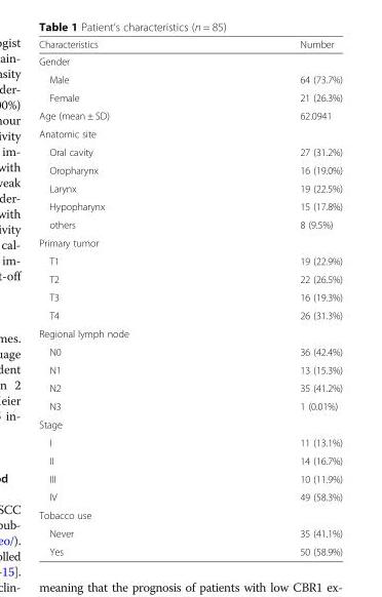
<table><thead><tr><td>Characteristics</td><td>Number</td></tr></thead><tbody><tr><td colspan="2">Gender</td></tr><tr><td>Male</td><td>64 (73.7%)</td></tr><tr><td>Female</td><td>21 (26.3%)</td></tr><tr><td>Age (mean ± SD)</td><td>62.0941</td></tr><tr><td colspan="2">Anatomic site</td></tr><tr><td>Oral cavity</td><td>27 (31.2%)</td></tr><tr><td>Oropharynx</td><td>16 (19.0%)</td></tr><tr><td>Larynx</td><td>19 (22.5%)</td></tr><tr><td>Hypopharynx</td><td>15 (17.8%)</td></tr><tr><td>others</td><td>8 (9.5%)</td></tr><tr><td colspan="2">Primary tumor</td></tr><tr><td>T1</td><td>19 (22.9%)</td></tr><tr><td>T2</td><td>22 (26.5%)</td></tr><tr><td>T3</td><td>16 (19.3%)</td></tr><tr><td>T4</td><td>26 (31.3%)</td></tr><tr><td colspan="2">Regional lymph node</td></tr><tr><td>N0</td><td>36 (42.4%)</td></tr><tr><td>N1</td><td>13 (15.3%)</td></tr><tr><td>N2</td><td>35 (41.2%)</td></tr><tr><td>N3</td><td>1 (0.01%)</td></tr><tr><td colspan="2">Stage</td></tr><tr><td>I</td><td>11 (13.1%)</td></tr><tr><td>II</td><td>14 (16.7%)</td></tr><tr><td>III</td><td>10 (11.9%)</td></tr><tr><td>IV</td><td>49 (58.3%)</td></tr><tr><td colspan="2">Tobacco use</td></tr><tr><td>Never</td><td>35 (41.1%)</td></tr><tr><td>Yes</td><td>50 (58.9%)</td></tr></tbody></table>